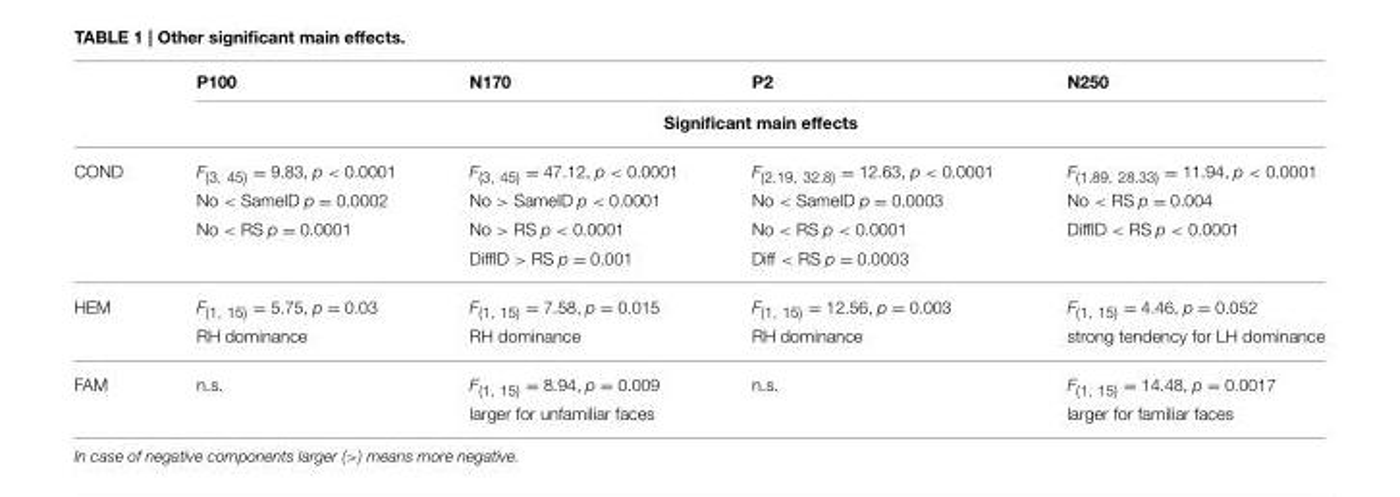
<table><thead><tr><td rowspan="2"></td><td>P100</td><td>N170</td><td>P2</td><td>N250</td></tr><tr><td colspan="4">Significant main effects</td></tr></thead><tbody><tr><td rowspan="4">COND</td><td>F<sub>(3, 45)</sub> = 9.83, p &lt; 0.0001</td><td>F<sub>(3, 45)</sub> = 47.12, p &lt; 0.0001</td><td>F<sub>(2.19, 32.8)</sub> = 12.63, p &lt; 0.0001</td><td>F<sub>(1.89, 28.33)</sub> = 11.94, p &lt; 0.0001</td></tr><tr><td>No &lt; SameID p = 0.0002</td><td>No &gt; SameID p &lt; 0.0001</td><td>No &lt; SameID p = 0.0003</td><td>No &lt; RS p = 0.004</td></tr><tr><td>No &lt; RS p = 0.0001</td><td>No &gt; RS p &lt; 0.0001</td><td>No &lt; RS p &lt; 0.0001</td><td>DiffID &lt; RS p &lt; 0.0001</td></tr><tr><td></td><td>DiffID &gt; RS p = 0.001</td><td>Diff &lt; RS p = 0.0003</td><td></td></tr><tr><td rowspan="2">HEM</td><td>F<sub>(1, 15)</sub> = 5.75, p = 0.03</td><td>F<sub>(1, 15)</sub> = 7.58, p = 0.015</td><td>F<sub>(1, 15)</sub> = 12.56, p = 0.003</td><td>F<sub>(1, 15)</sub> = 4.46, p = 0.052</td></tr><tr><td>RH dominance</td><td>RH dominance</td><td>RH dominance</td><td>strong tendency for LH dominance</td></tr><tr><td rowspan="2">FAM</td><td>n.s.</td><td>F<sub>(1, 15)</sub> = 8.94, p = 0.009</td><td>n.s.</td><td>F<sub>(1, 15)</sub> = 14.48, p = 0.0017</td></tr><tr><td></td><td>larger for unfamiliar faces</td><td></td><td>larger for familiar faces</td></tr></tbody></table>